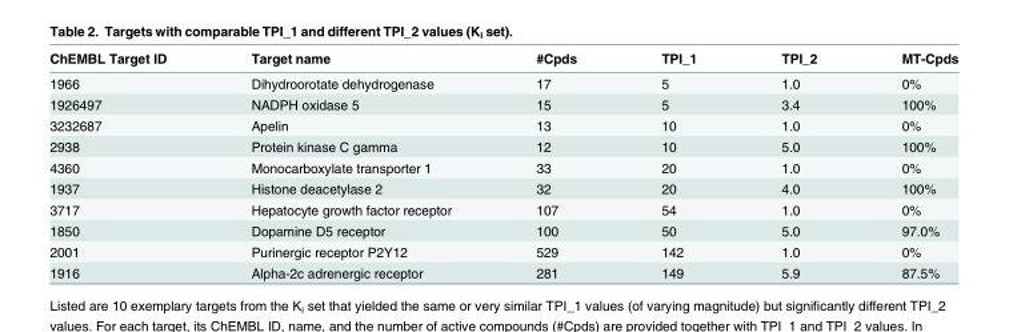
<table><thead><tr><td>ChEMBL Target ID</td><td>Target name</td><td>#Cpds</td><td>TPI_1</td><td>TPI_2</td><td>MT-Cpds</td></tr></thead><tbody><tr><td>1966</td><td>Dihydroorotate dehydrogenase</td><td>17</td><td>5</td><td>1.0</td><td>0%</td></tr><tr><td>1926497</td><td>NADPH oxidase 5</td><td>15</td><td>5</td><td>3.4</td><td>100%</td></tr><tr><td>3232687</td><td>Apelin</td><td>13</td><td>10</td><td>1.0</td><td>0%</td></tr><tr><td>2938</td><td>Protein kinase C gamma</td><td>12</td><td>10</td><td>5.0</td><td>100%</td></tr><tr><td>4360</td><td>Monocarboxylate transporter 1</td><td>33</td><td>20</td><td>1.0</td><td>0%</td></tr><tr><td>1937</td><td>Histone deacetylase 2</td><td>32</td><td>20</td><td>4.0</td><td>100%</td></tr><tr><td>3717</td><td>Hepatocyte growth factor receptor</td><td>107</td><td>54</td><td>1.0</td><td>0%</td></tr><tr><td>1850</td><td>Dopamine D5 receptor</td><td>100</td><td>50</td><td>5.0</td><td>97.0%</td></tr><tr><td>2001</td><td>Purinergic receptor P2Y12</td><td>529</td><td>142</td><td>1.0</td><td>0%</td></tr><tr><td>1916</td><td>Alpha-2c adrenergic receptor</td><td>281</td><td>149</td><td>5.9</td><td>87.5%</td></tr></tbody></table>